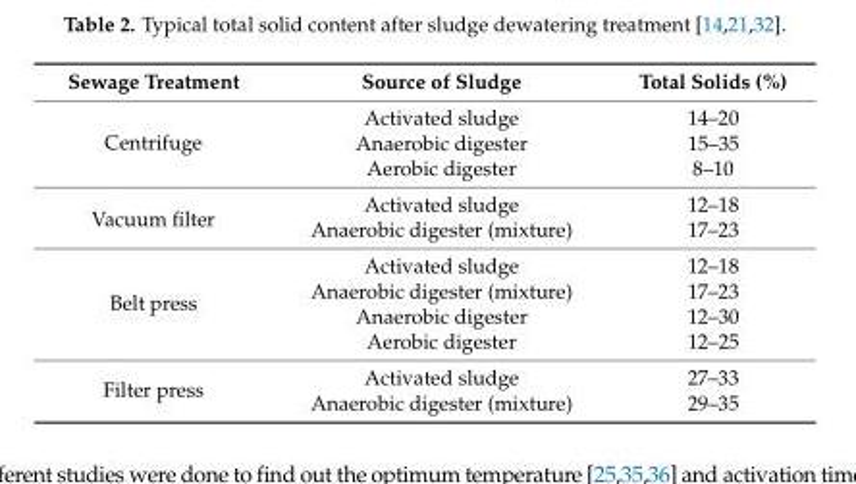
<table><thead><tr><td>Sewage Treatment</td><td>Source of Sludge</td><td>Total Solids (%)</td></tr></thead><tbody><tr><td rowspan="3">Centrifuge</td><td>Activated sludge</td><td>14–20</td></tr><tr><td>Anaerobic digester</td><td>15–35</td></tr><tr><td>Aerobic digester</td><td>8–10</td></tr><tr><td rowspan="2">Vacuum filter</td><td>Activated sludge</td><td>12–18</td></tr><tr><td>Anaerobic digester (mixture)</td><td>17–23</td></tr><tr><td rowspan="4">Belt press</td><td>Activated sludge</td><td>12–18</td></tr><tr><td>Anaerobic digester (mixture)</td><td>17–23</td></tr><tr><td>Anaerobic digester</td><td>12–30</td></tr><tr><td>Aerobic digester</td><td>12–25</td></tr><tr><td rowspan="2">Filter press</td><td>Activated sludge</td><td>27–33</td></tr><tr><td>Anaerobic digester (mixture)</td><td>29–35</td></tr></tbody></table>